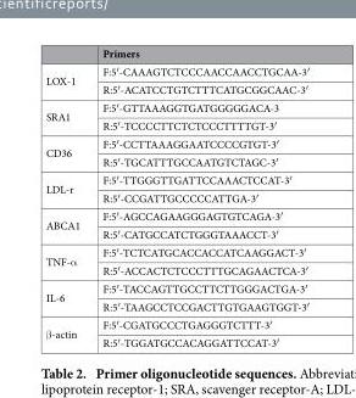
<table><thead><tr><td></td><td>Primers</td></tr></thead><tbody><tr><td rowspan="2">LOX-1</td><td>F:5′ -CAAAGTCTCCCAACCAACCTGCAA-3′</td></tr><tr><td>R:5′ -ACATCCTGTCTTTCATGCGGCAAC-3′</td></tr><tr><td rowspan="2">SRA1</td><td>F:5′ -GTTAAAGGTGATGGGGGACA-3</td></tr><tr><td>R:5′ -TCCCCTTCTCTCCCTTTTGT-3′</td></tr><tr><td rowspan="2">CD36</td><td>F:5′ -CCTTAAAGGAATCCCCGTGT-3′</td></tr><tr><td>R:5′ -TGCATTTGCCAATGTCTAGC-3′</td></tr><tr><td rowspan="2">LDL-r</td><td>F:5′ -TTGGGTTGATTCCAAACTCCAT-3′</td></tr><tr><td>R:5′ -CCGATTGCCCCCATTGA-3′</td></tr><tr><td rowspan="2">ABCA1</td><td>F:5′ -AGCCAGAAGGGAGTGTCAGA-3′</td></tr><tr><td>R:5′ -CATGCCATCTGGGTAAACCT-3′</td></tr><tr><td rowspan="2">TNF-α</td><td>F:5′ -TCTCATGCACCACCATCAAGGACT-3′</td></tr><tr><td>R:5′ -ACCACTCTCCCTTTGCAGAACTCA-3′</td></tr><tr><td rowspan="2">IL-6</td><td>F:5′ -TACCAGTTGCCTTCTTGGGACTGA-3′</td></tr><tr><td>R:5′ -TAAGCCTCCGACTTGTGAAGTGGT-3′</td></tr><tr><td rowspan="2">β -actin</td><td>F:5′ -CGATGCCCTGAGGGTCTTT-3′</td></tr><tr><td>R:5′ -TGGATGCCACAGGATTCCAT-3′</td></tr></tbody></table>